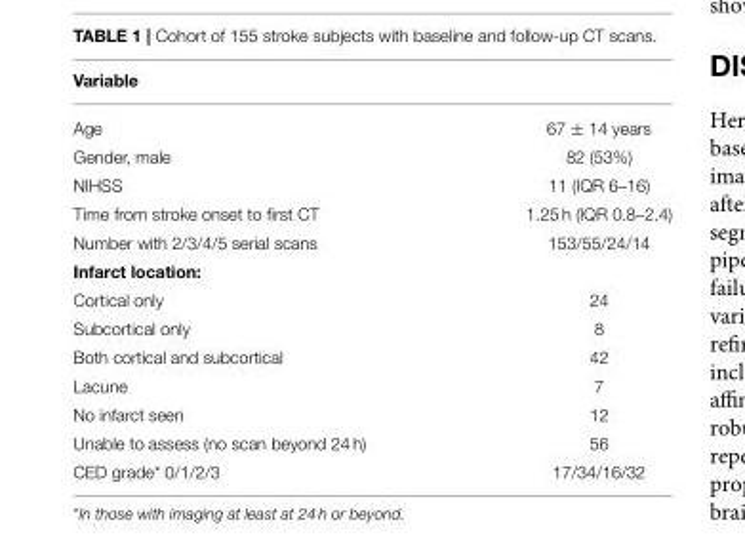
<table><thead><tr><td>Variable</td><td></td></tr></thead><tbody><tr><td>Age</td><td>67 ± 14 years</td></tr><tr><td>Gender, male</td><td>82 (53%)</td></tr><tr><td>NIHSS</td><td>11 (IQR 6–16)</td></tr><tr><td>Time from stroke onset to first CT</td><td>1.25 h (IQR 0.8–2.4)</td></tr><tr><td>Number with 2/3/4/5 serial scans</td><td>153/55/24/14</td></tr><tr><td colspan="2">Infarct location:</td></tr><tr><td>Cortical only</td><td>24</td></tr><tr><td>Subcortical only</td><td>8</td></tr><tr><td>Both cortical and subcortical</td><td>42</td></tr><tr><td>Lacune</td><td>7</td></tr><tr><td>No infarct seen</td><td>12</td></tr><tr><td>Unable to assess (no scan beyond 24 h)</td><td>56</td></tr><tr><td>CED grade* 0/1/2/3</td><td>17/34/16/32</td></tr></tbody></table>